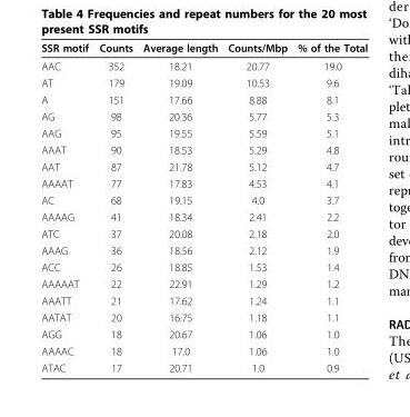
<table><thead><tr><td>SSR motif</td><td>Counts</td><td>Average length</td><td>Counts/Mbp</td><td>% of the Total</td></tr></thead><tbody><tr><td>AAC</td><td>352</td><td>18.21</td><td>20.77</td><td>19.0</td></tr><tr><td>AT</td><td>179</td><td>19.09</td><td>10.53</td><td>9.6</td></tr><tr><td>A</td><td>151</td><td>17.66</td><td>8.88</td><td>8.1</td></tr><tr><td>AG</td><td>98</td><td>20.36</td><td>5.77</td><td>5.3</td></tr><tr><td>AAG</td><td>95</td><td>19.55</td><td>5.59</td><td>5.1</td></tr><tr><td>AAAT</td><td>90</td><td>18.53</td><td>5.29</td><td>4.8</td></tr><tr><td>AAT</td><td>87</td><td>21.78</td><td>5.12</td><td>4.7</td></tr><tr><td>AAAAT</td><td>77</td><td>17.83</td><td>4.53</td><td>4.1</td></tr><tr><td>AC</td><td>68</td><td>19.15</td><td>4.0</td><td>3.7</td></tr><tr><td>AAAAG</td><td>41</td><td>18.34</td><td>2.41</td><td>2.2</td></tr><tr><td>ATC</td><td>37</td><td>20.08</td><td>2.18</td><td>2.0</td></tr><tr><td>AAAG</td><td>36</td><td>18.56</td><td>2.12</td><td>1.9</td></tr><tr><td>ACC</td><td>26</td><td>18.85</td><td>1.53</td><td>1.4</td></tr><tr><td>AAAAAT</td><td>22</td><td>22.91</td><td>1.29</td><td>1.2</td></tr><tr><td>AAATT</td><td>21</td><td>17.62</td><td>1.24</td><td>1.1</td></tr><tr><td>AATAT</td><td>20</td><td>16.75</td><td>1.18</td><td>1.1</td></tr><tr><td>AGG</td><td>18</td><td>20.67</td><td>1.06</td><td>1.0</td></tr><tr><td>AAAAC</td><td>18</td><td>17.0</td><td>1.06</td><td>1.0</td></tr><tr><td>ATAC</td><td>17</td><td>20.71</td><td>1.0</td><td>0.9</td></tr></tbody></table>